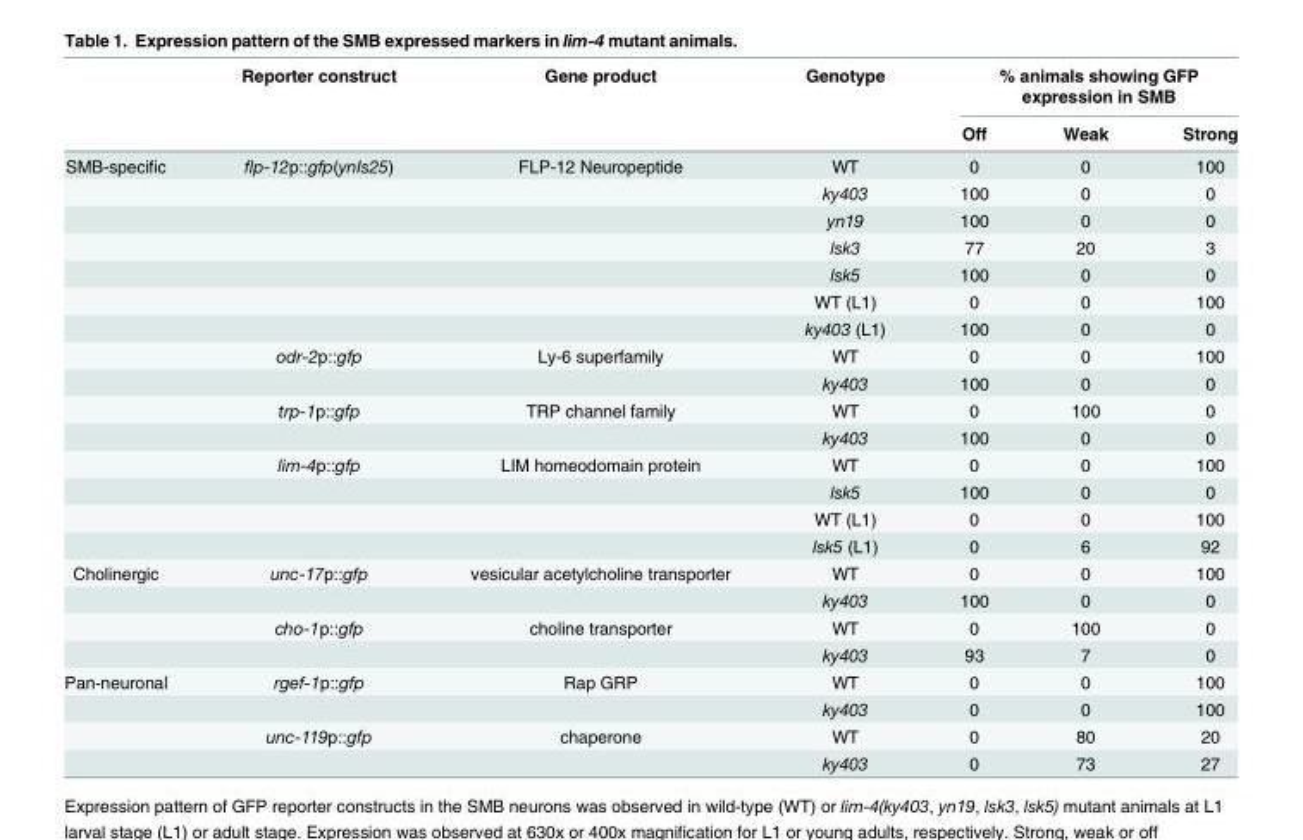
<table><thead><tr><td rowspan="2"></td><td rowspan="2">Reporter construct</td><td rowspan="2">Gene product</td><td rowspan="2">Genotype</td><td colspan="3">% animals showing GFP expression in SMB</td></tr><tr><td>Off</td><td>Weak</td><td>Strong</td></tr></thead><tbody><tr><td rowspan="15">SMB-specific</td><td>flp-12p::gfp(ynIs25)</td><td>FLP-12 Neuropeptide</td><td>WT</td><td>0</td><td>0</td><td>100</td></tr><tr><td></td><td></td><td>ky403</td><td>100</td><td>0</td><td>0</td></tr><tr><td></td><td></td><td>yn19</td><td>100</td><td>0</td><td>0</td></tr><tr><td></td><td></td><td>lsk3</td><td>77</td><td>20</td><td>3</td></tr><tr><td></td><td></td><td>lsk5</td><td>100</td><td>0</td><td>0</td></tr><tr><td></td><td></td><td>WT (L1)</td><td>0</td><td>0</td><td>100</td></tr><tr><td></td><td></td><td>ky403 (L1)</td><td>100</td><td>0</td><td>0</td></tr><tr><td>odr-2p::gfp</td><td>Ly-6 superfamily</td><td>WT</td><td>0</td><td>0</td><td>100</td></tr><tr><td></td><td></td><td>ky403</td><td>100</td><td>0</td><td>0</td></tr><tr><td>trp-1p::gfp</td><td>TRP channel family</td><td>WT</td><td>0</td><td>100</td><td>0</td></tr><tr><td></td><td></td><td>ky403</td><td>100</td><td>0</td><td>0</td></tr><tr><td>lim-4p::gfp</td><td>LIM homeodomain protein</td><td>WT</td><td>0</td><td>0</td><td>100</td></tr><tr><td></td><td></td><td>lsk5</td><td>100</td><td>0</td><td>0</td></tr><tr><td></td><td></td><td>WT (L1)</td><td>0</td><td>0</td><td>100</td></tr><tr><td></td><td></td><td>lsk5 (L1)</td><td>0</td><td>6</td><td>92</td></tr><tr><td rowspan="4">Cholinergic</td><td>unc-17p::gfp</td><td>vesicular acetylcholine transporter</td><td>WT</td><td>0</td><td>0</td><td>100</td></tr><tr><td></td><td></td><td>ky403</td><td>100</td><td>0</td><td>0</td></tr><tr><td>cho-1p::gfp</td><td>choline transporter</td><td>WT</td><td>0</td><td>100</td><td>0</td></tr><tr><td></td><td></td><td>ky403</td><td>93</td><td>7</td><td>0</td></tr><tr><td rowspan="4">Pan-neuronal</td><td>rgef-1p::gfp</td><td>Rap GRP</td><td>WT</td><td>0</td><td>0</td><td>100</td></tr><tr><td></td><td></td><td>ky403</td><td>0</td><td>0</td><td>100</td></tr><tr><td>unc-119p::gfp</td><td>chaperone</td><td>WT</td><td>0</td><td>80</td><td>20</td></tr><tr><td></td><td></td><td>ky403</td><td>0</td><td>73</td><td>27</td></tr></tbody></table>